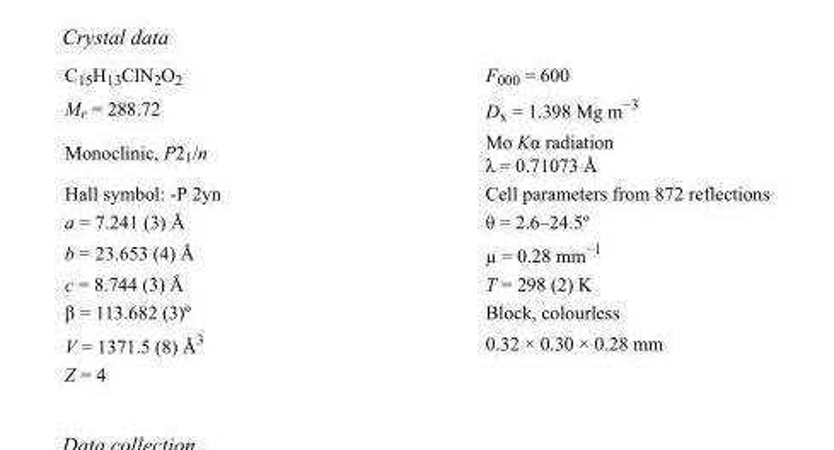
<table><tbody><tr><td>C<sub>15</sub>H<sub>13</sub>ClN<sub>2</sub>O<sub>2</sub></td><td>F<sub>000</sub> = 600</td></tr><tr><td>M<sub>r</sub> = 288.72</td><td>D<sub>x</sub> = 1.398 Mg m<sup>−3</sup></td></tr><tr><td>Monoclinic, P2<sub>1</sub>/n</td><td>Mo Kα radiation λ = 0.71073 Å</td></tr><tr><td>Hall symbol: -P 2yn</td><td>Cell parameters from 872 reflections</td></tr><tr><td>a = 7.241 (3) Å</td><td>θ = 2.6–24.5º</td></tr><tr><td>b = 23.653 (4) Å</td><td>µ = 0.28 mm<sup>−1</sup></td></tr><tr><td>c = 8.744 (3) Å</td><td>T = 298 (2) K</td></tr><tr><td>β = 113.682 (3)º</td><td>Block, colourless</td></tr><tr><td>V = 1371.5 (8) Å<sup>3</sup></td><td>0.32 × 0.30 × 0.28 mm</td></tr><tr><td>Z = 4</td><td></td></tr></tbody></table>